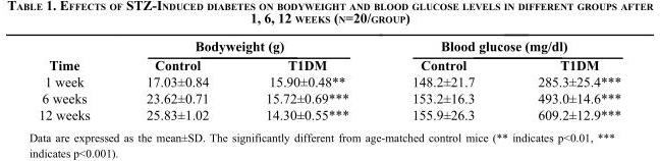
<table><thead><tr><td rowspan="2">Time</td><td colspan="2">Bodyweight (g)</td><td colspan="2">Blood glucose (mg/dl)</td></tr><tr><td>Control</td><td>T1DM</td><td>Control</td><td>T1DM</td></tr></thead><tbody><tr><td>1 week</td><td>17.03±0.84</td><td>15.90±0.48**</td><td>148.2±21.7</td><td>285.3±25.4***</td></tr><tr><td>6 weeks</td><td>23.62±0.71</td><td>15.72±0.69***</td><td>153.2±16.3</td><td>493.0±14.6***</td></tr><tr><td>12 weeks</td><td>25.83±1.02</td><td>14.30±0.55***</td><td>155.9±26.3</td><td>609.2±12.9***</td></tr></tbody></table>